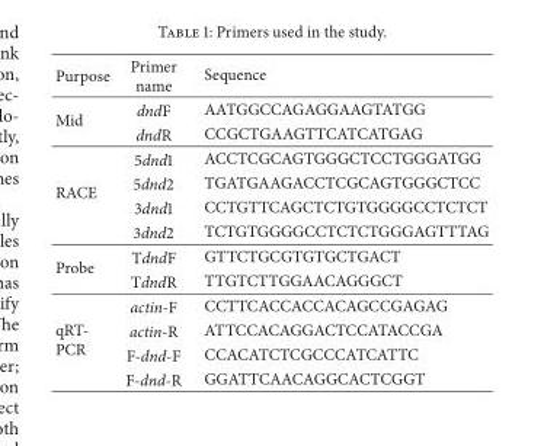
<table><thead><tr><td>Purpose</td><td>Primer name</td><td>Sequence</td></tr></thead><tbody><tr><td rowspan="2">Mid</td><td>dndF</td><td>AATGGCCAGAGGAAGTATGG</td></tr><tr><td>dndR</td><td>CCGCTGAAGTTCATCATGAG</td></tr><tr><td rowspan="4">RACE</td><td>5dnd1</td><td>ACCTCGCAGTGGGCTCCTGGGATGG</td></tr><tr><td>5dnd2</td><td>TGATGAAGACCTCGCAGTGGGCTCC</td></tr><tr><td>3dnd1</td><td>CCTGTTCAGCTCTGTGGGGCCTCTCT</td></tr><tr><td>3dnd2</td><td>TCTGTGGGGCCTCTCTGGGAGTTTAG</td></tr><tr><td rowspan="2">Probe</td><td>TdndF</td><td>GTTCTGCGTGTGCTGACT</td></tr><tr><td>TdndR</td><td>TTGTCTTGGAACAGGGCT</td></tr><tr><td rowspan="4">qRT- PCR</td><td>actin-F</td><td>CCTTCACCACCACAGCCGAGAG</td></tr><tr><td>actin-R</td><td>ATTCCACAGGACTCCATACCGA</td></tr><tr><td>F-dnd-F</td><td>CCACATCTCGCCCATCATTC</td></tr><tr><td>F-dnd-R</td><td>GGATTCAACAGGCACTCGGT</td></tr></tbody></table>